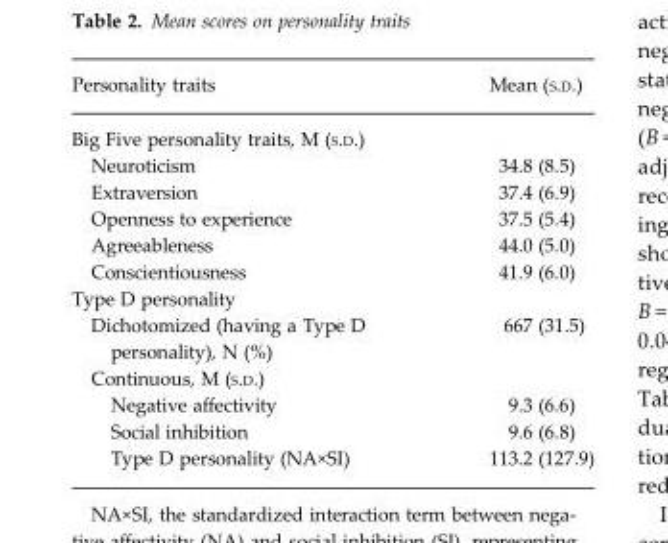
<table><thead><tr><td>Personality traits</td><td>Mean (S.D.)</td></tr></thead><tbody><tr><td colspan="2">Big Five personality traits, M (S.D.)</td></tr><tr><td>Neuroticism</td><td>34.8 (8.5)</td></tr><tr><td>Extraversion</td><td>37.4 (6.9)</td></tr><tr><td>Openness to experience</td><td>37.5 (5.4)</td></tr><tr><td>Agreeableness</td><td>44.0 (5.0)</td></tr><tr><td>Conscientiousness</td><td>41.9 (6.0)</td></tr><tr><td colspan="2">Type D personality</td></tr><tr><td>Dichotomized (having a Type D personality), N (%)</td><td>667 (31.5)</td></tr><tr><td colspan="2">Continuous, M (S.D.)</td></tr><tr><td>Negative affectivity</td><td>9.3 (6.6)</td></tr><tr><td>Social inhibition</td><td>9.6 (6.8)</td></tr><tr><td>Type D personality (NA×SI)</td><td>113.2 (127.9)</td></tr></tbody></table>